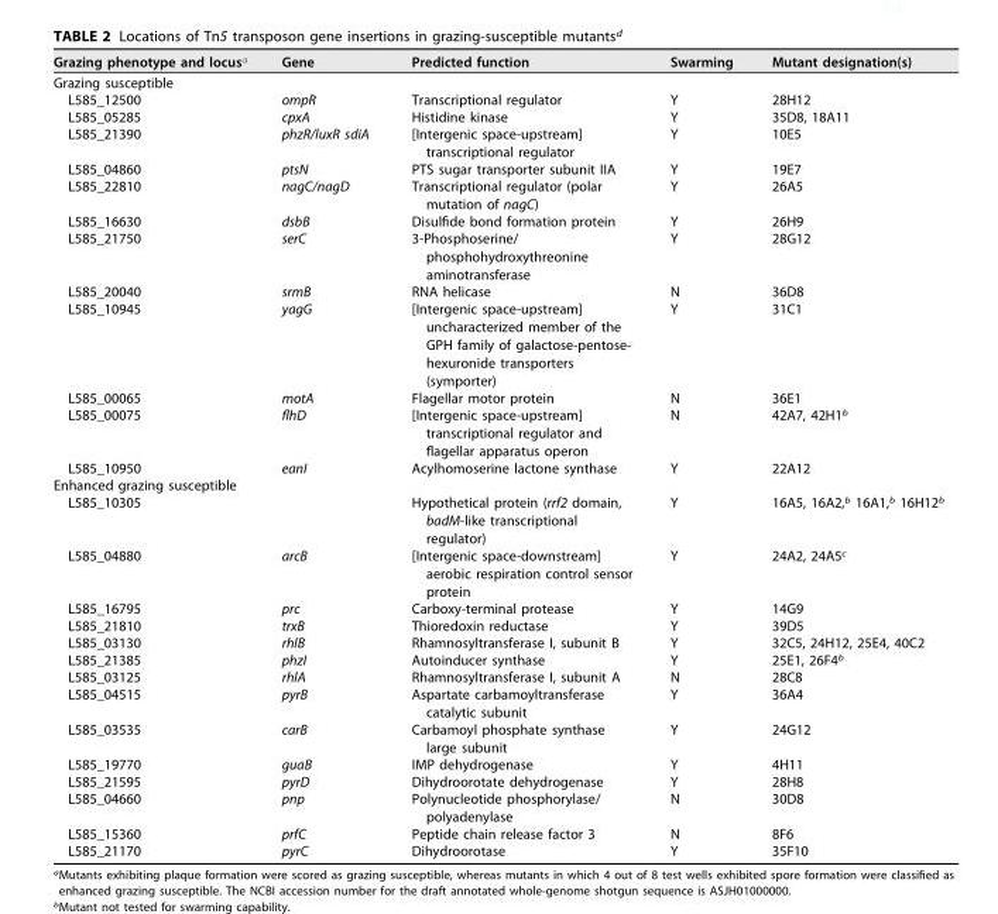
<table><thead><tr><td>Grazing phenotype and locus<sup>a</sup></td><td>Gene</td><td>Predicted function</td><td>Swarming</td><td>Mutant designation(s)</td></tr></thead><tbody><tr><td colspan="5">Grazing susceptible</td></tr><tr><td>L585_12500</td><td>ompR</td><td>Transcriptional regulator</td><td>Y</td><td>28H12</td></tr><tr><td>L585_05285</td><td>cpxA</td><td>Histidine kinase</td><td>Y</td><td>35D8, 18A11</td></tr><tr><td>L585_21390</td><td>phzR/luxR sdiA</td><td>[Intergenic space-upstream] transcriptional regulator</td><td>Y</td><td>10E5</td></tr><tr><td>L585_04860</td><td>ptsN</td><td>PTS sugar transporter subunit IIA</td><td>Y</td><td>19E7</td></tr><tr><td>L585_22810</td><td>nagC/nagD</td><td>Transcriptional regulator (polar mutation of nagC)</td><td>Y</td><td>26A5</td></tr><tr><td>L585_16630</td><td>dsbB</td><td>Disulfide bond formation protein</td><td>Y</td><td>26H9</td></tr><tr><td>L585_21750</td><td>serC</td><td>3-Phosphoserine/ phosphohydroxythreonine aminotransferase</td><td>Y</td><td>28G12</td></tr><tr><td>L585_20040</td><td>srmB</td><td>RNA helicase</td><td>N</td><td>36D8</td></tr><tr><td>L585_10945</td><td>yagG</td><td>[Intergenic space-upstream] uncharacterized member of the GPH family of galactose-pentose- hexuronide transporters (symporter)</td><td>Y</td><td>31C1</td></tr><tr><td>L585_00065</td><td>motA</td><td>Flagellar motor protein</td><td>N</td><td>36E1</td></tr><tr><td>L585_00075</td><td>flhD</td><td>[Intergenic space-upstream] transcriptional regulator and flagellar apparatus operon</td><td>N</td><td>42A7, 42H1<sup>b</sup></td></tr><tr><td>L585_10950</td><td>eanI</td><td>Acylhomoserine lactone synthase</td><td>Y</td><td>22A12</td></tr><tr><td colspan="5">Enhanced grazing susceptible</td></tr><tr><td>L585_10305</td><td></td><td>Hypothetical protein (rrf2 domain, badM-like transcriptional regulator)</td><td>Y</td><td>16A5, 16A2,<sup>b</sup> 16A1,<sup>b</sup> 16H12<sup>b</sup></td></tr><tr><td>L585_04880</td><td>arcB</td><td>[Intergenic space-downstream] aerobic respiration control sensor protein</td><td>Y</td><td>24A2, 24A5<sup>c</sup></td></tr><tr><td>L585_16795</td><td>prc</td><td>Carboxy-terminal protease</td><td>Y</td><td>14G9</td></tr><tr><td>L585_21810</td><td>trxB</td><td>Thioredoxin reductase</td><td>Y</td><td>39D5</td></tr><tr><td>L585_03130</td><td>rhlB</td><td>Rhamnosyltransferase I, subunit B</td><td>Y</td><td>32C5, 24H12, 25E4, 40C2</td></tr><tr><td>L585_21385</td><td>phzI</td><td>Autoinducer synthase</td><td>Y</td><td>25E1, 26F4<sup>b</sup></td></tr><tr><td>L585_03125</td><td>rhlA</td><td>Rhamnosyltransferase I, subunit A</td><td>N</td><td>28C8</td></tr><tr><td>L585_04515</td><td>pyrB</td><td>Aspartate carbamoyltransferase catalytic subunit</td><td>Y</td><td>36A4</td></tr><tr><td>L585_03535</td><td>carB</td><td>Carbamoyl phosphate synthase large subunit</td><td>Y</td><td>24G12</td></tr><tr><td>L585_19770</td><td>guaB</td><td>IMP dehydrogenase</td><td>Y</td><td>4H11</td></tr><tr><td>L585_21595</td><td>pyrD</td><td>Dihydroorotate dehydrogenase</td><td>Y</td><td>28H8</td></tr><tr><td>L585_04660</td><td>pnp</td><td>Polynucleotide phosphorylase/ polyadenylase</td><td>N</td><td>30D8</td></tr><tr><td>L585_15360</td><td>prfC</td><td>Peptide chain release factor 3</td><td>N</td><td>8F6</td></tr><tr><td>L585_21170</td><td>pyrC</td><td>Dihydroorotase</td><td>Y</td><td>35F10</td></tr></tbody></table>